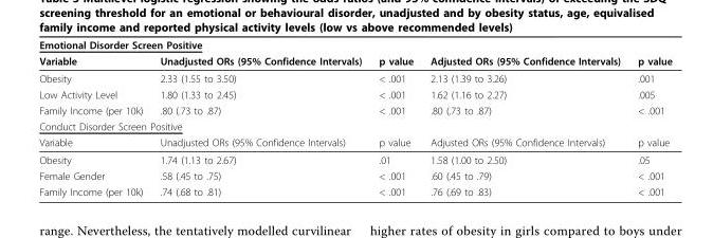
<table><thead><tr><td colspan="5">Emotional Disorder Screen Positive</td></tr><tr><td>Variable</td><td>Unadjusted ORs (95% Confidence Intervals)</td><td>p value</td><td>Adjusted ORs (95% Confidence Intervals)</td><td>p value</td></tr></thead><tbody><tr><td>Obesity</td><td>2.33 (1.55 to 3.50)</td><td>&lt; .001</td><td>2.13 (1.39 to 3.26)</td><td>.001</td></tr><tr><td>Low Activity Level</td><td>1.80 (1.33 to 2.45)</td><td>&lt; .001</td><td>1.62 (1.16 to 2.27)</td><td>.005</td></tr><tr><td>Family Income (per 10k)</td><td>.80 (.73 to .87)</td><td>&lt; .001</td><td>.80 (.73 to .87)</td><td>&lt; .001</td></tr><tr><td colspan="5">Conduct Disorder Screen Positive</td></tr><tr><td>Variable</td><td>Unadjusted ORs (95% Confidence Intervals)</td><td>p value</td><td>Adjusted ORs (95% Confidence Intervals)</td><td>p value</td></tr><tr><td>Obesity</td><td>1.74 (1.13 to 2.67)</td><td>.01</td><td>1.58 (1.00 to 2.50)</td><td>.05</td></tr><tr><td>Female Gender</td><td>.58 (.45 to .75)</td><td>&lt; .001</td><td>.60 (.45 to .79)</td><td>&lt; .001</td></tr><tr><td>Family Income (per 10k)</td><td>.74 (.68 to .81)</td><td>&lt; .001</td><td>.76 (.69 to .83)</td><td>&lt; .001</td></tr></tbody></table>